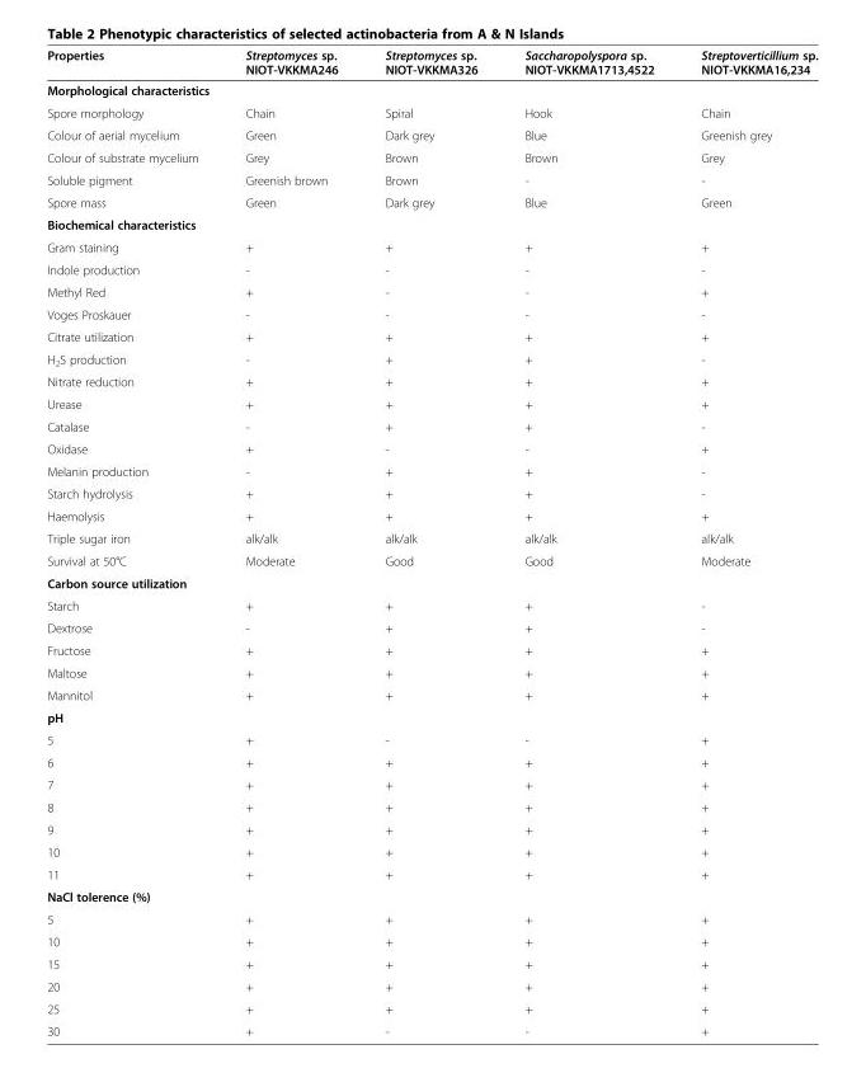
<table><thead><tr><td>Properties</td><td>Streptomyces sp. NIOT-VKKMA246</td><td>Streptomyces sp. NIOT-VKKMA326</td><td>Saccharopolyspora sp. NIOT-VKKMA1713,4522</td><td>Streptoverticillium sp. NIOT-VKKMA16,234</td></tr></thead><tbody><tr><td colspan="5">Morphological characteristics</td></tr><tr><td>Spore morphology</td><td>Chain</td><td>Spiral</td><td>Hook</td><td>Chain</td></tr><tr><td>Colour of aerial mycelium</td><td>Green</td><td>Dark grey</td><td>Blue</td><td>Greenish grey</td></tr><tr><td>Colour of substrate mycelium</td><td>Grey</td><td>Brown</td><td>Brown</td><td>Grey</td></tr><tr><td>Soluble pigment</td><td>Greenish brown</td><td>Brown</td><td>-</td><td>-</td></tr><tr><td>Spore mass</td><td>Green</td><td>Dark grey</td><td>Blue</td><td>Green</td></tr><tr><td colspan="5">Biochemical characteristics</td></tr><tr><td>Gram staining</td><td>+</td><td>+</td><td>+</td><td>+</td></tr><tr><td>Indole production</td><td>-</td><td>-</td><td>-</td><td>-</td></tr><tr><td>Methyl Red</td><td>+</td><td>-</td><td>-</td><td>+</td></tr><tr><td>Voges Proskauer</td><td>-</td><td>-</td><td>-</td><td>-</td></tr><tr><td>Citrate utilization</td><td>+</td><td>+</td><td>+</td><td>+</td></tr><tr><td>H<sub>2</sub>S production</td><td>-</td><td>+</td><td>+</td><td>-</td></tr><tr><td>Nitrate reduction</td><td>+</td><td>+</td><td>+</td><td>+</td></tr><tr><td>Urease</td><td>+</td><td>+</td><td>+</td><td>+</td></tr><tr><td>Catalase</td><td>-</td><td>+</td><td>+</td><td>-</td></tr><tr><td>Oxidase</td><td>+</td><td>-</td><td>-</td><td>+</td></tr><tr><td>Melanin production</td><td>-</td><td>+</td><td>+</td><td>-</td></tr><tr><td>Starch hydrolysis</td><td>+</td><td>+</td><td>+</td><td>-</td></tr><tr><td>Haemolysis</td><td>+</td><td>+</td><td>+</td><td>+</td></tr><tr><td>Triple sugar iron</td><td>alk/alk</td><td>alk/alk</td><td>alk/alk</td><td>alk/alk</td></tr><tr><td>Survival at 50°C</td><td>Moderate</td><td>Good</td><td>Good</td><td>Moderate</td></tr><tr><td colspan="5">Carbon source utilization</td></tr><tr><td>Starch</td><td>+</td><td>+</td><td>+</td><td>-</td></tr><tr><td>Dextrose</td><td>-</td><td>+</td><td>+</td><td>-</td></tr><tr><td>Fructose</td><td>+</td><td>+</td><td>+</td><td>+</td></tr><tr><td>Maltose</td><td>+</td><td>+</td><td>+</td><td>+</td></tr><tr><td>Mannitol</td><td>+</td><td>+</td><td>+</td><td>+</td></tr><tr><td colspan="5">pH</td></tr><tr><td>5</td><td>+</td><td>-</td><td>-</td><td>+</td></tr><tr><td>6</td><td>+</td><td>+</td><td>+</td><td>+</td></tr><tr><td>7</td><td>+</td><td>+</td><td>+</td><td>+</td></tr><tr><td>8</td><td>+</td><td>+</td><td>+</td><td>+</td></tr><tr><td>9</td><td>+</td><td>+</td><td>+</td><td>+</td></tr><tr><td>10</td><td>+</td><td>+</td><td>+</td><td>+</td></tr><tr><td>11</td><td>+</td><td>+</td><td>+</td><td>+</td></tr><tr><td colspan="5">NaCl tolerence (%)</td></tr><tr><td>5</td><td>+</td><td>+</td><td>+</td><td>+</td></tr><tr><td>10</td><td>+</td><td>+</td><td>+</td><td>+</td></tr><tr><td>15</td><td>+</td><td>+</td><td>+</td><td>+</td></tr><tr><td>20</td><td>+</td><td>+</td><td>+</td><td>+</td></tr><tr><td>25</td><td>+</td><td>+</td><td>+</td><td>+</td></tr><tr><td>30</td><td>+</td><td>-</td><td>-</td><td>+</td></tr></tbody></table>